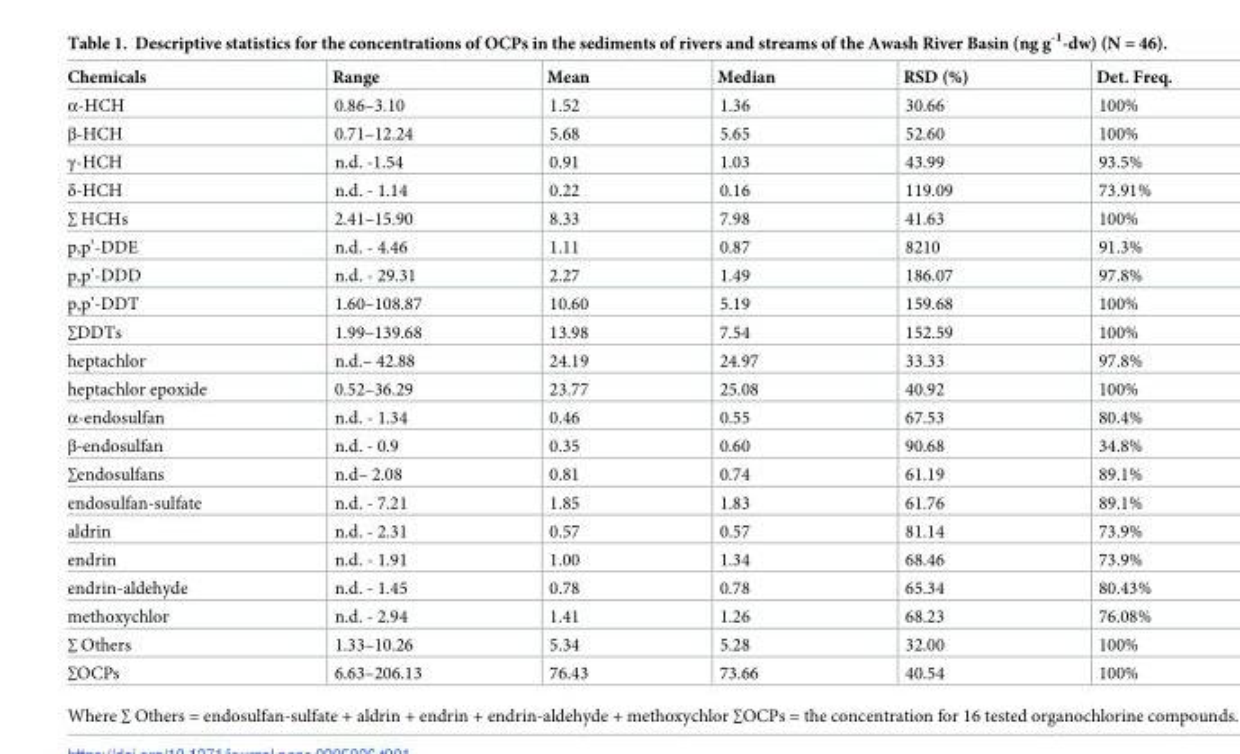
<table><thead><tr><td>Chemicals</td><td>Range</td><td>Mean</td><td>Median</td><td>RSD (%)</td><td>Det. Freq.</td></tr></thead><tbody><tr><td>α-HCH</td><td>0.86–3.10</td><td>1.52</td><td>1.36</td><td>30.66</td><td>100%</td></tr><tr><td>β-HCH</td><td>0.71–12.24</td><td>5.68</td><td>5.65</td><td>52.60</td><td>100%</td></tr><tr><td>γ-HCH</td><td>n.d. -1.54</td><td>0.91</td><td>1.03</td><td>43.99</td><td>93.5%</td></tr><tr><td>δ-HCH</td><td>n.d. - 1.14</td><td>0.22</td><td>0.16</td><td>119.09</td><td>73.91%</td></tr><tr><td>∑ HCHs</td><td>2.41–15.90</td><td>8.33</td><td>7.98</td><td>41.63</td><td>100%</td></tr><tr><td>p,p’-DDE</td><td>n.d. - 4.46</td><td>1.11</td><td>0.87</td><td>8210</td><td>91.3%</td></tr><tr><td>p,p’-DDD</td><td>n.d. - 29.31</td><td>2.27</td><td>1.49</td><td>186.07</td><td>97.8%</td></tr><tr><td>p,p’-DDT</td><td>1.60–108.87</td><td>10.60</td><td>5.19</td><td>159.68</td><td>100%</td></tr><tr><td>∑DDTs</td><td>1.99–139.68</td><td>13.98</td><td>7.54</td><td>152.59</td><td>100%</td></tr><tr><td>heptachlor</td><td>n.d.– 42.88</td><td>24.19</td><td>24.97</td><td>33.33</td><td>97.8%</td></tr><tr><td>heptachlor epoxide</td><td>0.52–36.29</td><td>23.77</td><td>25.08</td><td>40.92</td><td>100%</td></tr><tr><td>α-endosulfan</td><td>n.d. - 1.34</td><td>0.46</td><td>0.55</td><td>67.53</td><td>80.4%</td></tr><tr><td>β-endosulfan</td><td>n.d. - 0.9</td><td>0.35</td><td>0.60</td><td>90.68</td><td>34.8%</td></tr><tr><td>∑endosulfans</td><td>n.d– 2.08</td><td>0.81</td><td>0.74</td><td>61.19</td><td>89.1%</td></tr><tr><td>endosulfan-sulfate</td><td>n.d. - 7.21</td><td>1.85</td><td>1.83</td><td>61.76</td><td>89.1%</td></tr><tr><td>aldrin</td><td>n.d. - 2.31</td><td>0.57</td><td>0.57</td><td>81.14</td><td>73.9%</td></tr><tr><td>endrin</td><td>n.d. - 1.91</td><td>1.00</td><td>1.34</td><td>68.46</td><td>73.9%</td></tr><tr><td>endrin-aldehyde</td><td>n.d. - 1.45</td><td>0.78</td><td>0.78</td><td>65.34</td><td>80.43%</td></tr><tr><td>methoxychlor</td><td>n.d. - 2.94</td><td>1.41</td><td>1.26</td><td>68.23</td><td>76.08%</td></tr><tr><td>∑ Others</td><td>1.33–10.26</td><td>5.34</td><td>5.28</td><td>32.00</td><td>100%</td></tr><tr><td>∑OCPs</td><td>6.63–206.13</td><td>76.43</td><td>73.66</td><td>40.54</td><td>100%</td></tr></tbody></table>